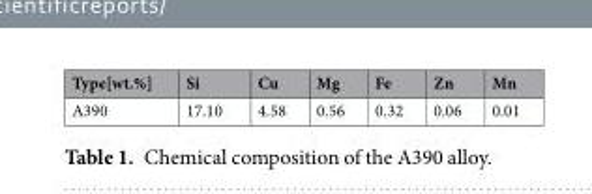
<table><thead><tr><td>Type[wt.%]</td><td>Si</td><td>Cu</td><td>Mg</td><td>Fe</td><td>Zn</td><td>Mn</td></tr></thead><tbody><tr><td>A390</td><td>17.10</td><td>4.58</td><td>0.56</td><td>0.32</td><td>0.06</td><td>0.01</td></tr></tbody></table>